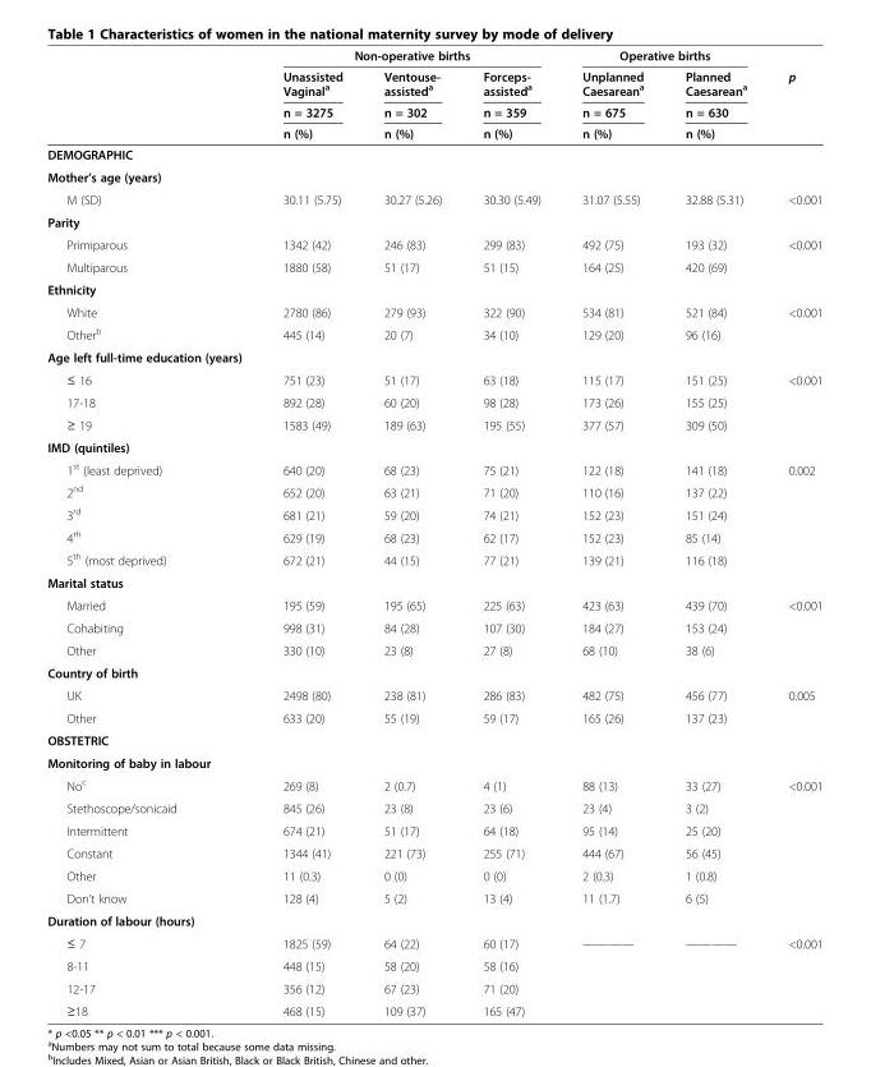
<table><thead><tr><td rowspan="4"></td><td colspan="3">Non-operative births</td><td colspan="2">Operative births</td><td rowspan="4">p</td></tr><tr><td rowspan="3">Unassisted Vaginal<sup>a</sup> n = 3275 n (%)</td><td rowspan="3">Ventouse- assisted<sup>a</sup> n = 302 n (%)</td><td rowspan="3">Forceps- assisted<sup>a</sup> n = 359 n (%)</td><td rowspan="3">Unplanned Caesarean<sup>a</sup> n = 675 n (%)</td><td rowspan="3">Planned Caesarean<sup>a</sup> n = 630 n (%)</td></tr><tr></tr><tr></tr></thead><tbody><tr><td colspan="7">DEMOGRAPHIC</td></tr><tr><td colspan="7">Mother’s age (years)</td></tr><tr><td>M (SD)</td><td>30.11 (5.75)</td><td>30.27 (5.26)</td><td>30.30 (5.49)</td><td>31.07 (5.55)</td><td>32.88 (5.31)</td><td>&lt;0.001</td></tr><tr><td colspan="7">Parity</td></tr><tr><td>Primiparous</td><td>1342 (42)</td><td>246 (83)</td><td>299 (83)</td><td>492 (75)</td><td>193 (32)</td><td>&lt;0.001</td></tr><tr><td>Multiparous</td><td>1880 (58)</td><td>51 (17)</td><td>51 (15)</td><td>164 (25)</td><td>420 (69)</td><td></td></tr><tr><td colspan="7">Ethnicity</td></tr><tr><td>White</td><td>2780 (86)</td><td>279 (93)</td><td>322 (90)</td><td>534 (81)</td><td>521 (84)</td><td>&lt;0.001</td></tr><tr><td>Other<sup>b</sup></td><td>445 (14)</td><td>20 (7)</td><td>34 (10)</td><td>129 (20)</td><td>96 (16)</td><td></td></tr><tr><td colspan="7">Age left full-time education (years)</td></tr><tr><td>≤ 16</td><td>751 (23)</td><td>51 (17)</td><td>63 (18)</td><td>115 (17)</td><td>151 (25)</td><td>&lt;0.001</td></tr><tr><td>17-18</td><td>892 (28)</td><td>60 (20)</td><td>98 (28)</td><td>173 (26)</td><td>155 (25)</td><td></td></tr><tr><td>≥ 19</td><td>1583 (49)</td><td>189 (63)</td><td>195 (55)</td><td>377 (57)</td><td>309 (50)</td><td></td></tr><tr><td colspan="7">IMD (quintiles)</td></tr><tr><td>1<sup>st</sup> (least deprived)</td><td>640 (20)</td><td>68 (23)</td><td>75 (21)</td><td>122 (18)</td><td>141 (18)</td><td>0.002</td></tr><tr><td>2<sup>nd</sup></td><td>652 (20)</td><td>63 (21)</td><td>71 (20)</td><td>110 (16)</td><td>137 (22)</td><td></td></tr><tr><td>3<sup>rd</sup></td><td>681 (21)</td><td>59 (20)</td><td>74 (21)</td><td>152 (23)</td><td>151 (24)</td><td></td></tr><tr><td>4<sup>th</sup></td><td>629 (19)</td><td>68 (23)</td><td>62 (17)</td><td>152 (23)</td><td>85 (14)</td><td></td></tr><tr><td>5<sup>th</sup> (most deprived)</td><td>672 (21)</td><td>44 (15)</td><td>77 (21)</td><td>139 (21)</td><td>116 (18)</td><td></td></tr><tr><td colspan="7">Marital status</td></tr><tr><td>Married</td><td>195 (59)</td><td>195 (65)</td><td>225 (63)</td><td>423 (63)</td><td>439 (70)</td><td>&lt;0.001</td></tr><tr><td>Cohabiting</td><td>998 (31)</td><td>84 (28)</td><td>107 (30)</td><td>184 (27)</td><td>153 (24)</td><td></td></tr><tr><td>Other</td><td>330 (10)</td><td>23 (8)</td><td>27 (8)</td><td>68 (10)</td><td>38 (6)</td><td></td></tr><tr><td colspan="7">Country of birth</td></tr><tr><td>UK</td><td>2498 (80)</td><td>238 (81)</td><td>286 (83)</td><td>482 (75)</td><td>456 (77)</td><td>0.005</td></tr><tr><td>Other</td><td>633 (20)</td><td>55 (19)</td><td>59 (17)</td><td>165 (26)</td><td>137 (23)</td><td></td></tr><tr><td colspan="7">OBSTETRIC</td></tr><tr><td colspan="7">Monitoring of baby in labour</td></tr><tr><td>No<sup>c</sup></td><td>269 (8)</td><td>2 (0.7)</td><td>4 (1)</td><td>88 (13)</td><td>33 (27)</td><td>&lt;0.001</td></tr><tr><td>Stethoscope/sonicaid</td><td>845 (26)</td><td>23 (8)</td><td>23 (6)</td><td>23 (4)</td><td>3 (2)</td><td></td></tr><tr><td>Intermittent</td><td>674 (21)</td><td>51 (17)</td><td>64 (18)</td><td>95 (14)</td><td>25 (20)</td><td></td></tr><tr><td>Constant</td><td>1344 (41)</td><td>221 (73)</td><td>255 (71)</td><td>444 (67)</td><td>56 (45)</td><td></td></tr><tr><td>Other</td><td>11 (0.3)</td><td>0 (0)</td><td>0 (0)</td><td>2 (0.3)</td><td>1 (0.8)</td><td></td></tr><tr><td>Don’t know</td><td>128 (4)</td><td>5 (2)</td><td>13 (4)</td><td>11 (1.7)</td><td>6 (5)</td><td></td></tr><tr><td colspan="7">Duration of labour (hours)</td></tr><tr><td>≤ 7</td><td>1825 (59)</td><td>64 (22)</td><td>60 (17)</td><td>————</td><td>————</td><td>&lt;0.001</td></tr><tr><td>8-11</td><td>448 (15)</td><td>58 (20)</td><td>58 (16)</td><td></td><td></td><td></td></tr><tr><td>12-17</td><td>356 (12)</td><td>67 (23)</td><td>71 (20)</td><td></td><td></td><td></td></tr><tr><td>≥18</td><td>468 (15)</td><td>109 (37)</td><td>165 (47)</td><td></td><td></td><td></td></tr></tbody></table>